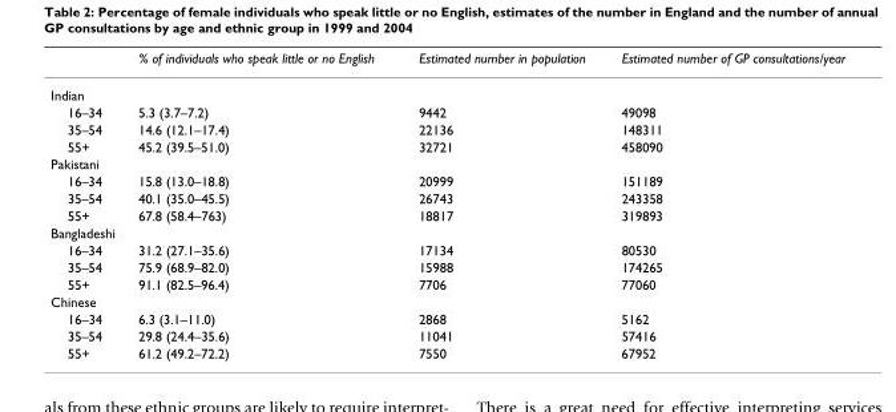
<table><thead><tr><td></td><td>% of individuals who speak little or no English</td><td>Estimated number in population</td><td>Estimated number of GP consultations/year</td></tr></thead><tbody><tr><td colspan="4">Indian</td></tr><tr><td>16–34</td><td>5.3 (3.7–7.2)</td><td>9442</td><td>49098</td></tr><tr><td>35–54</td><td>14.6 (12.1–17.4)</td><td>22136</td><td>148311</td></tr><tr><td>55+</td><td>45.2 (39.5–51.0)</td><td>32721</td><td>458090</td></tr><tr><td colspan="4">Pakistani</td></tr><tr><td>16–34</td><td>15.8 (13.0–18.8)</td><td>20999</td><td>151189</td></tr><tr><td>35–54</td><td>40.1 (35.0–45.5)</td><td>26743</td><td>243358</td></tr><tr><td>55+</td><td>67.8 (58.4–763)</td><td>18817</td><td>319893</td></tr><tr><td colspan="4">Bangladeshi</td></tr><tr><td>16–34</td><td>31.2 (27.1–35.6)</td><td>17134</td><td>80530</td></tr><tr><td>35–54</td><td>75.9 (68.9–82.0)</td><td>15988</td><td>174265</td></tr><tr><td>55+</td><td>91.1 (82.5–96.4)</td><td>7706</td><td>77060</td></tr><tr><td colspan="4">Chinese</td></tr><tr><td>16–34</td><td>6.3 (3.1–11.0)</td><td>2868</td><td>5162</td></tr><tr><td>35–54</td><td>29.8 (24.4–35.6)</td><td>11041</td><td>57416</td></tr><tr><td>55+</td><td>61.2 (49.2–72.2)</td><td>7550</td><td>67952</td></tr></tbody></table>